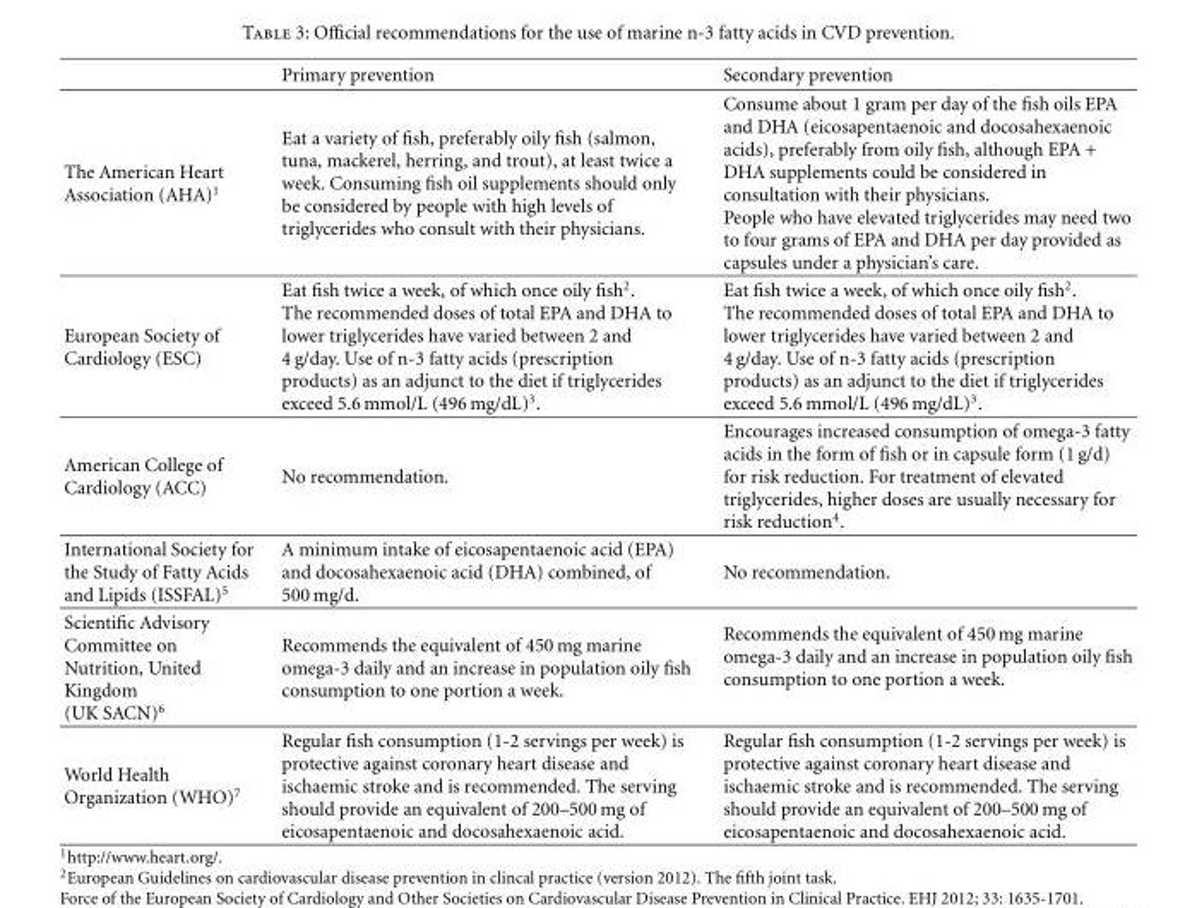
<table><thead><tr><td></td><td>Primary prevention</td><td>Secondary prevention</td></tr></thead><tbody><tr><td>The American Heart Association (AHA)<sup>1</sup></td><td>Eat a variety of fish, preferably oily fish (salmon, tuna, mackerel, herring, and trout), at least twice a week. Consuming fish oil supplements should only be considered by people with high levels of triglycerides who consult with their physicians.</td><td>Consume about 1 gram per day of the fish oils EPA and DHA (eicosapentaenoic and docosahexaenoic acids), preferably from oily fish, although EPA + DHA supplements could be considered in consultation with their physicians. People who have elevated triglycerides may need two to four grams of EPA and DHA per day provided as capsules under a physician’s care.</td></tr><tr><td>European Society of Cardiology (ESC)</td><td>Eat fish twice a week, of which once oily fish<sup>2</sup>. The recommended doses of total EPA and DHA to lower triglycerides have varied between 2 and 4 g/day. Use of n-3 fatty acids (prescription products) as an adjunct to the diet if triglycerides exceed 5.6 mmol/L (496 mg/dL)<sup>3</sup>.</td><td>Eat fish twice a week, of which once oily fish<sup>2</sup>. The recommended doses of total EPA and DHA to lower triglycerides have varied between 2 and 4 g/day. Use of n-3 fatty acids (prescription products) as an adjunct to the diet if triglycerides exceed 5.6 mmol/L (496 mg/dL)<sup>3</sup>.</td></tr><tr><td>American College of Cardiology (ACC)</td><td>No recommendation.</td><td>Encourages increased consumption of omega-3 fatty acids in the form of fish or in capsule form (1 g/d) for risk reduction. For treatment of elevated triglycerides, higher doses are usually necessary for risk reduction<sup>4</sup>.</td></tr><tr><td>International Society for the Study of Fatty Acids and Lipids (ISSFAL)<sup>5</sup></td><td>A minimum intake of eicosapentaenoic acid (EPA) and docosahexaenoic acid (DHA) combined, of 500 mg/d.</td><td>No recommendation.</td></tr><tr><td>Scientific Advisory Committee on Nutrition, United Kingdom (UK SACN)<sup>6</sup></td><td>Recommends the equivalent of 450 mg marine omega-3 daily and an increase in population oily fish consumption to one portion a week.</td><td>Recommends the equivalent of 450 mg marine omega-3 daily and an increase in population oily fish consumption to one portion a week.</td></tr><tr><td>World Health Organization (WHO)<sup>7</sup></td><td>Regular fish consumption (1-2 servings per week) is protective against coronary heart disease and ischaemic stroke and is recommended. The serving should provide an equivalent of 200–500 mg of eicosapentaenoic and docosahexaenoic acid.</td><td>Regular fish consumption (1-2 servings per week) is protective against coronary heart disease and ischaemic stroke and is recommended. The serving should provide an equivalent of 200–500 mg of eicosapentaenoic and docosahexaenoic acid.</td></tr></tbody></table>